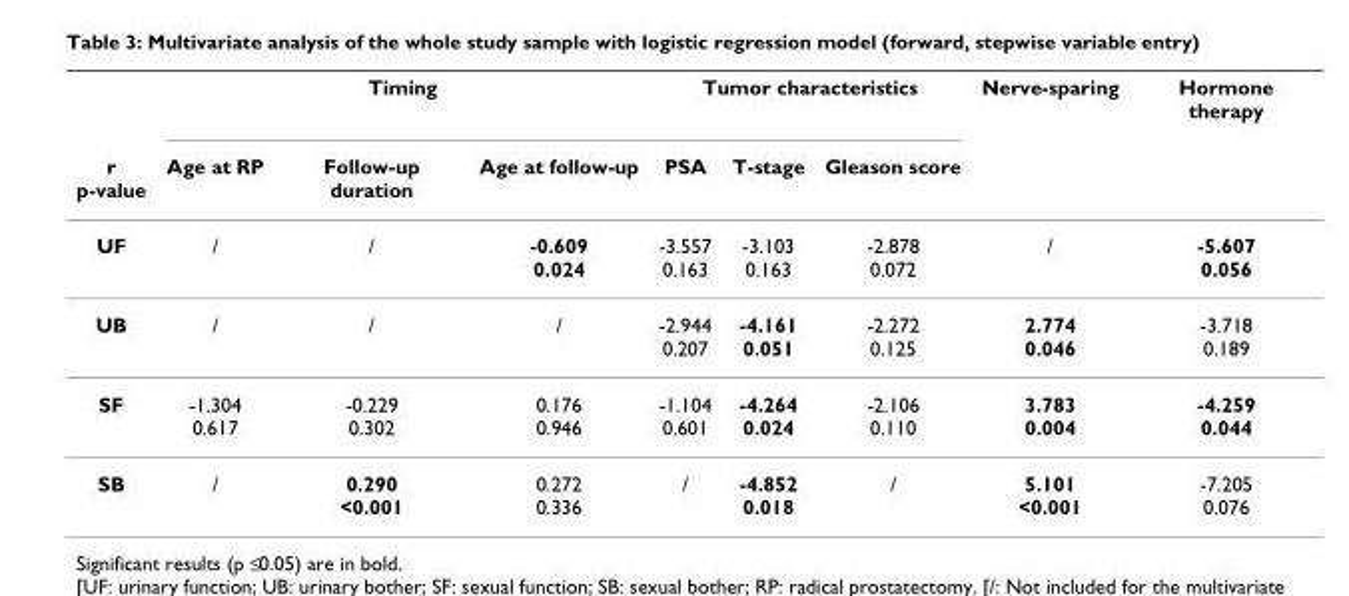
<table><thead><tr><td rowspan="2">r p-value</td><td colspan="3">Timing</td><td colspan="3">Tumor characteristics</td><td rowspan="2">Nerve-sparing</td><td rowspan="2">Hormone therapy</td></tr><tr><td>Age at RP</td><td>Follow-up duration</td><td>Age at follow-up</td><td>PSA</td><td>T-stage</td><td>Gleason score</td></tr></thead><tbody><tr><td>UF</td><td>/</td><td>/</td><td>-0.609 0.024</td><td>-3.557 0.163</td><td>-3.103 0.163</td><td>-2.878 0.072</td><td>/</td><td>-5.607 0.056</td></tr><tr><td>UB</td><td>/</td><td>/</td><td>/</td><td>-2.944 0.207</td><td>-4.161 0.051</td><td>-2.272 0.125</td><td>2.774 0.046</td><td>-3.718 0.189</td></tr><tr><td>SF</td><td>-1.304 0.617</td><td>-0.229 0.302</td><td>0.176 0.946</td><td>-1.104 0.601</td><td>-4.264 0.024</td><td>-2.106 0.110</td><td>3.783 0.004</td><td>-4.259 0.044</td></tr><tr><td>SB</td><td>/</td><td>0.290 &lt;0.001</td><td>0.272 0.336</td><td>/</td><td>-4.852 0.018</td><td>/</td><td>5.101 &lt;0.001</td><td>-7.205 0.076</td></tr></tbody></table>